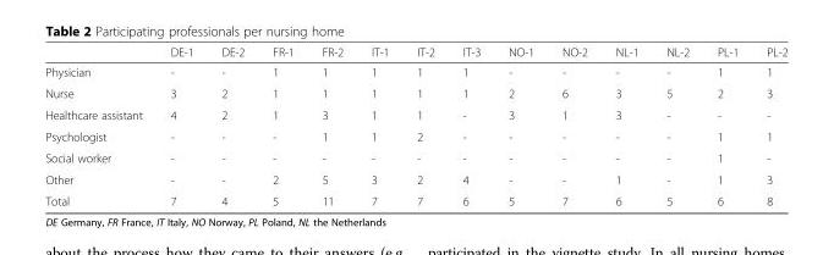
<table><thead><tr><td></td><td>DE-1</td><td>DE-2</td><td>FR-1</td><td>FR-2</td><td>IT-1</td><td>IT-2</td><td>IT-3</td><td>NO-1</td><td>NO-2</td><td>NL-1</td><td>NL-2</td><td>PL-1</td><td>PL-2</td></tr></thead><tbody><tr><td>Physician</td><td>-</td><td>-</td><td>1</td><td>1</td><td>1</td><td>1</td><td>1</td><td>-</td><td>-</td><td>-</td><td>-</td><td>1</td><td>1</td></tr><tr><td>Nurse</td><td>3</td><td>2</td><td>1</td><td>1</td><td>1</td><td>1</td><td>1</td><td>2</td><td>6</td><td>3</td><td>5</td><td>2</td><td>3</td></tr><tr><td>Healthcare assistant</td><td>4</td><td>2</td><td>1</td><td>3</td><td>1</td><td>1</td><td>-</td><td>3</td><td>1</td><td>3</td><td>-</td><td>-</td><td>-</td></tr><tr><td>Psychologist</td><td>-</td><td>-</td><td>-</td><td>1</td><td>1</td><td>2</td><td>-</td><td>-</td><td>-</td><td>-</td><td>-</td><td>1</td><td>1</td></tr><tr><td>Social worker</td><td>-</td><td>-</td><td>-</td><td>-</td><td>-</td><td>-</td><td>-</td><td>-</td><td>-</td><td>-</td><td>-</td><td>1</td><td>-</td></tr><tr><td>Other</td><td>-</td><td>-</td><td>2</td><td>5</td><td>3</td><td>2</td><td>4</td><td>-</td><td>-</td><td>1</td><td>-</td><td>1</td><td>3</td></tr><tr><td>Total</td><td>7</td><td>4</td><td>5</td><td>11</td><td>7</td><td>7</td><td>6</td><td>5</td><td>7</td><td>6</td><td>5</td><td>6</td><td>8</td></tr></tbody></table>